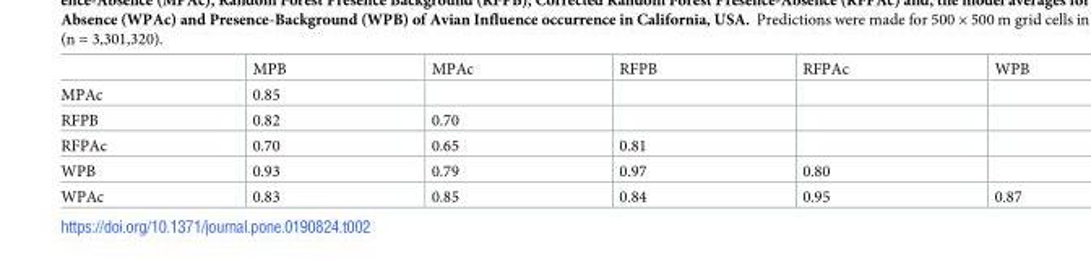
<table><thead><tr><td></td><td>MPB</td><td>MPAc</td><td>RFPB</td><td>RFPAc</td><td>WPB</td></tr></thead><tbody><tr><td>MPAc</td><td>0.85</td><td></td><td></td><td></td><td></td></tr><tr><td>RFPB</td><td>0.82</td><td>0.70</td><td></td><td></td><td></td></tr><tr><td>RFPAc</td><td>0.70</td><td>0.65</td><td>0.81</td><td></td><td></td></tr><tr><td>WPB</td><td>0.93</td><td>0.79</td><td>0.97</td><td>0.80</td><td></td></tr><tr><td>WPAc</td><td>0.83</td><td>0.85</td><td>0.84</td><td>0.95</td><td>0.87</td></tr></tbody></table>